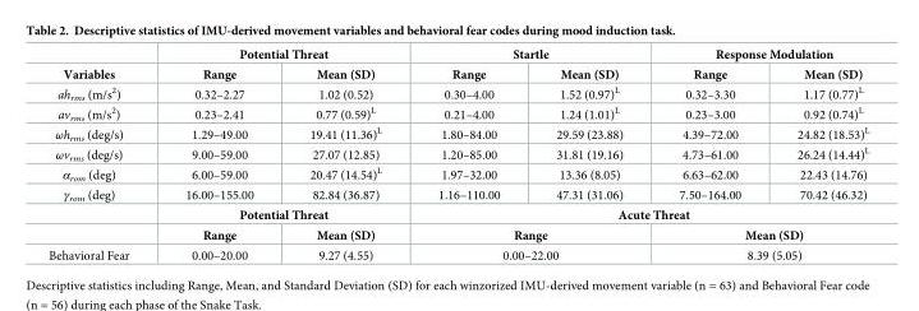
<table><thead><tr><td rowspan="2">Variables</td><td colspan="2">Potential Threat</td><td colspan="2">Startle</td><td colspan="2">Response Modulation</td></tr><tr><td>Range</td><td>Mean (SD)</td><td>Range</td><td>Mean (SD)</td><td>Range</td><td>Mean (SD)</td></tr></thead><tbody><tr><td>ah<sub>rms</sub> (m/s<sup>2</sup>)</td><td>0.32–2.27</td><td>1.02 (0.52)</td><td>0.30–4.00</td><td>1.52 (0.97)<sup>L</sup></td><td>0.32–3.30</td><td>1.17 (0.77)<sup>L</sup></td></tr><tr><td>av<sub>rms</sub> (m/s<sup>2</sup>)</td><td>0.23–2.41</td><td>0.77 (0.59)<sup>L</sup></td><td>0.21–4.00</td><td>1.24 (1.01)<sup>L</sup></td><td>0.23–3.00</td><td>0.92 (0.74)<sup>L</sup></td></tr><tr><td>ωh<sub>rms</sub> (deg/s)</td><td>1.29–49.00</td><td>19.41 (11.36)<sup>L</sup></td><td>1.80–84.00</td><td>29.59 (23.88)</td><td>4.39–72.00</td><td>24.82 (18.53)<sup>L</sup></td></tr><tr><td>ωv<sub>rms</sub> (deg/s)</td><td>9.00–59.00</td><td>27.07 (12.85)</td><td>1.20–85.00</td><td>31.81 (19.16)</td><td>4.73–61.00</td><td>26.24 (14.44)<sup>L</sup></td></tr><tr><td>α<sub>rom</sub> (deg)</td><td>6.00–59.00</td><td>20.47 (14.54)<sup>L</sup></td><td>1.97–32.00</td><td>13.36 (8.05)</td><td>6.63–62.00</td><td>22.43 (14.76)</td></tr><tr><td rowspan="3">γ<sub>rom</sub> (deg)</td><td>16.00–155.00</td><td>82.84 (36.87)</td><td>1.16–110.00</td><td>47.31 (31.06)</td><td>7.50–164.00</td><td>70.42 (46.32)</td></tr><tr><td colspan="2">Potential Threat</td><td colspan="4">Acute Threat</td></tr><tr><td>Range</td><td>Mean (SD)</td><td colspan="2">Range</td><td colspan="2">Mean (SD)</td></tr><tr><td>Behavioral Fear</td><td>0.00–20.00</td><td>9.27 (4.55)</td><td colspan="2">0.00–22.00</td><td colspan="2">8.39 (5.05)</td></tr></tbody></table>